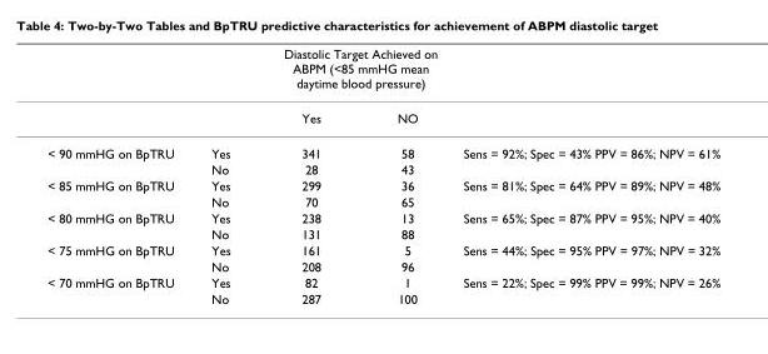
<table><thead><tr><td rowspan="2"></td><td rowspan="2"></td><td colspan="2">Diastolic Target Achieved on ABPM (&lt;85 mmHG mean daytime blood pressure)</td><td rowspan="2"></td></tr><tr><td>Yes</td><td>NO</td></tr></thead><tbody><tr><td rowspan="2">&lt; 90 mmHG on BpTRU</td><td>Yes</td><td>341</td><td>58</td><td>Sens = 92%; Spec = 43% PPV = 86%; NPV = 61%</td></tr><tr><td>No</td><td>28</td><td>43</td><td></td></tr><tr><td rowspan="2">&lt; 85 mmHG on BpTRU</td><td>Yes</td><td>299</td><td>36</td><td>Sens = 81%; Spec = 64% PPV = 89%; NPV = 48%</td></tr><tr><td>No</td><td>70</td><td>65</td><td></td></tr><tr><td rowspan="2">&lt; 80 mmHG on BpTRU</td><td>Yes</td><td>238</td><td>13</td><td>Sens = 65%; Spec = 87% PPV = 95%; NPV = 40%</td></tr><tr><td>No</td><td>131</td><td>88</td><td></td></tr><tr><td rowspan="2">&lt; 75 mmHG on BpTRU</td><td>Yes</td><td>161</td><td>5</td><td>Sens = 44%; Spec = 95% PPV = 97%; NPV = 32%</td></tr><tr><td>No</td><td>208</td><td>96</td><td></td></tr><tr><td rowspan="2">&lt; 70 mmHG on BpTRU</td><td>Yes</td><td>82</td><td>1</td><td>Sens = 22%; Spec = 99% PPV = 99%; NPV = 26%</td></tr><tr><td>No</td><td>287</td><td>100</td><td></td></tr></tbody></table>